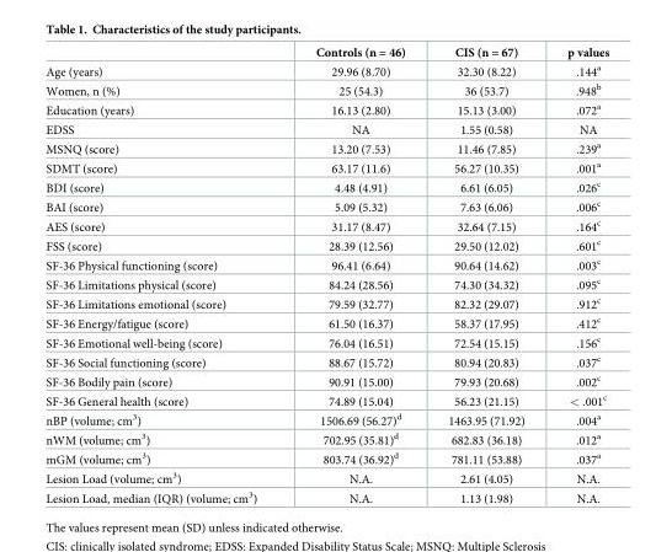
<table><thead><tr><td></td><td>Controls (n = 46)</td><td>CIS (n = 67)</td><td>p values</td></tr></thead><tbody><tr><td>Age (years)</td><td>29.96 (8.70)</td><td>32.30 (8.22)</td><td>.144<sup>a</sup></td></tr><tr><td>Women, n (%)</td><td>25 (54.3)</td><td>36 (53.7)</td><td>.948<sup>b</sup></td></tr><tr><td>Education (years)</td><td>16.13 (2.80)</td><td>15.13 (3.00)</td><td>.072<sup>a</sup></td></tr><tr><td>EDSS</td><td>NA</td><td>1.55 (0.58)</td><td>NA</td></tr><tr><td>MSNQ (score)</td><td>13.20 (7.53)</td><td>11.46 (7.85)</td><td>.239<sup>a</sup></td></tr><tr><td>SDMT (score)</td><td>63.17 (11.6)</td><td>56.27 (10.35)</td><td>.001<sup>a</sup></td></tr><tr><td>BDI (score)</td><td>4.48 (4.91)</td><td>6.61 (6.05)</td><td>.026<sup>c</sup></td></tr><tr><td>BAI (score)</td><td>5.09 (5.32)</td><td>7.63 (6.06)</td><td>.006<sup>c</sup></td></tr><tr><td>AES (score)</td><td>31.17 (8.47)</td><td>32.64 (7.15)</td><td>.164<sup>c</sup></td></tr><tr><td>FSS (score)</td><td>28.39 (12.56)</td><td>29.50 (12.02)</td><td>.601<sup>c</sup></td></tr><tr><td>SF-36 Physical functioning (score)</td><td>96.41 (6.64)</td><td>90.64 (14.62)</td><td>.003<sup>c</sup></td></tr><tr><td>SF-36 Limitations physical (score)</td><td>84.24 (28.56)</td><td>74.30 (34.32)</td><td>.095<sup>c</sup></td></tr><tr><td>SF-36 Limitations emotional (score)</td><td>79.59 (32.77)</td><td>82.32 (29.07)</td><td>.912<sup>c</sup></td></tr><tr><td>SF-36 Energy/fatigue (score)</td><td>61.50 (16.37)</td><td>58.37 (17.95)</td><td>.412<sup>c</sup></td></tr><tr><td>SF-36 Emotional well-being (score)</td><td>76.04 (16.51)</td><td>72.54 (15.15)</td><td>.156<sup>c</sup></td></tr><tr><td>SF-36 Social functioning (score)</td><td>88.67 (15.72)</td><td>80.94 (20.83)</td><td>.037<sup>c</sup></td></tr><tr><td>SF-36 Bodily pain (score)</td><td>90.91 (15.00)</td><td>79.93 (20.68)</td><td>.002<sup>c</sup></td></tr><tr><td>SF-36 General health (score)</td><td>74.89 (15.04)</td><td>56.23 (21.15)</td><td>&lt; .001<sup>c</sup></td></tr><tr><td>nBP (volume; cm<sup>3</sup>)</td><td>1506.69 (56.27)<sup>d</sup></td><td>1463.95 (71.92)</td><td>.004<sup>a</sup></td></tr><tr><td>nWM (volume; cm<sup>3</sup>)</td><td>702.95 (35.81)<sup>d</sup></td><td>682.83 (36.18)</td><td>.012<sup>a</sup></td></tr><tr><td>mGM (volume; cm<sup>3</sup>)</td><td>803.74 (36.92)<sup>d</sup></td><td>781.11 (53.88)</td><td>.037<sup>a</sup></td></tr><tr><td>Lesion Load (volume; cm<sup>3</sup>)</td><td>N.A.</td><td>2.61 (4.05)</td><td>N.A.</td></tr><tr><td>Lesion Load, median (IQR) (volume; cm<sup>3</sup>)</td><td>N.A.</td><td>1.13 (1.98)</td><td>N.A.</td></tr></tbody></table>